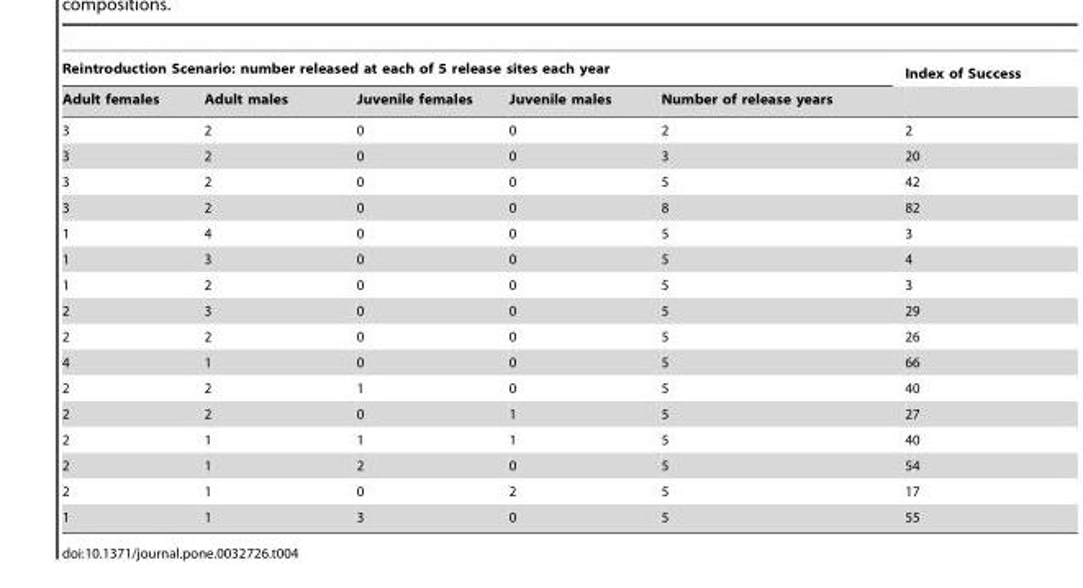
<table><thead><tr><td colspan="5">Reintroduction Scenario: number released at each of 5 release sites each year</td><td rowspan="2">Index of Success</td></tr><tr><td>Adult females</td><td>Adult males</td><td>Juvenile females</td><td>Juvenile males</td><td>Number of release years</td></tr></thead><tbody><tr><td>3</td><td>2</td><td>0</td><td>0</td><td>2</td><td>2</td></tr><tr><td>3</td><td>2</td><td>0</td><td>0</td><td>3</td><td>20</td></tr><tr><td>3</td><td>2</td><td>0</td><td>0</td><td>5</td><td>42</td></tr><tr><td>3</td><td>2</td><td>0</td><td>0</td><td>8</td><td>82</td></tr><tr><td>1</td><td>4</td><td>0</td><td>0</td><td>5</td><td>3</td></tr><tr><td>1</td><td>3</td><td>0</td><td>0</td><td>5</td><td>4</td></tr><tr><td>1</td><td>2</td><td>0</td><td>0</td><td>5</td><td>3</td></tr><tr><td>2</td><td>3</td><td>0</td><td>0</td><td>5</td><td>29</td></tr><tr><td>2</td><td>2</td><td>0</td><td>0</td><td>5</td><td>26</td></tr><tr><td>4</td><td>1</td><td>0</td><td>0</td><td>5</td><td>66</td></tr><tr><td>2</td><td>2</td><td>1</td><td>0</td><td>5</td><td>40</td></tr><tr><td>2</td><td>2</td><td>0</td><td>1</td><td>5</td><td>27</td></tr><tr><td>2</td><td>1</td><td>1</td><td>1</td><td>5</td><td>40</td></tr><tr><td>2</td><td>1</td><td>2</td><td>0</td><td>5</td><td>54</td></tr><tr><td>2</td><td>1</td><td>0</td><td>2</td><td>5</td><td>17</td></tr><tr><td>1</td><td>1</td><td>3</td><td>0</td><td>5</td><td>55</td></tr></tbody></table>